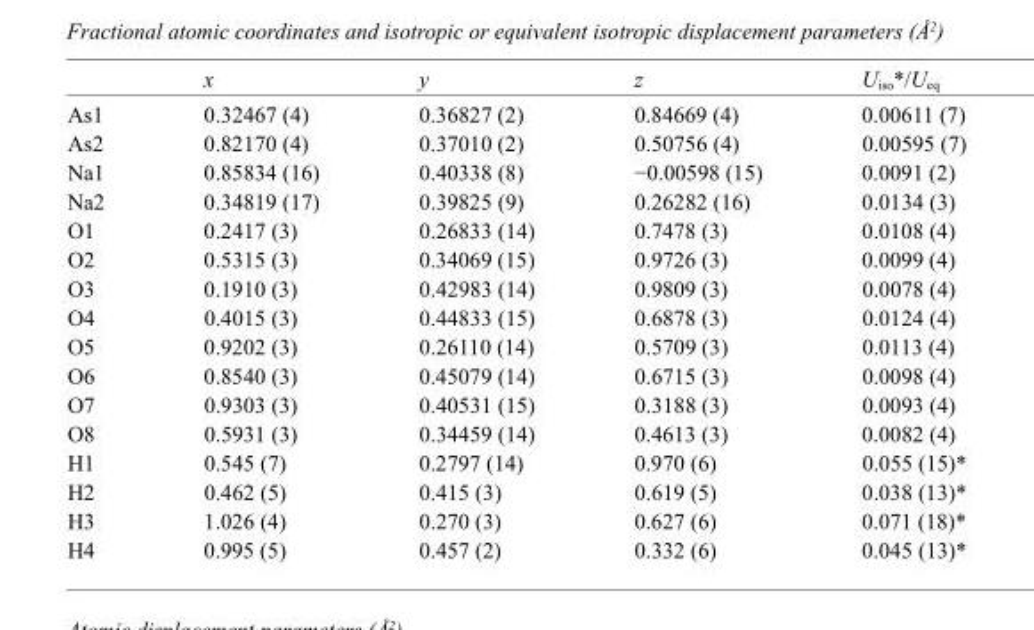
<table><thead><tr><td></td><td>x</td><td>y</td><td>z</td><td>U<sub>iso</sub>*/U<sub>eq</sub></td></tr></thead><tbody><tr><td>As1</td><td>0.32467 (4)</td><td>0.36827 (2)</td><td>0.84669 (4)</td><td>0.00611 (7)</td></tr><tr><td>As2</td><td>0.82170 (4)</td><td>0.37010 (2)</td><td>0.50756 (4)</td><td>0.00595 (7)</td></tr><tr><td>Na1</td><td>0.85834 (16)</td><td>0.40338 (8)</td><td>−0.00598 (15)</td><td>0.0091 (2)</td></tr><tr><td>Na2</td><td>0.34819 (17)</td><td>0.39825 (9)</td><td>0.26282 (16)</td><td>0.0134 (3)</td></tr><tr><td>O1</td><td>0.2417 (3)</td><td>0.26833 (14)</td><td>0.7478 (3)</td><td>0.0108 (4)</td></tr><tr><td>O2</td><td>0.5315 (3)</td><td>0.34069 (15)</td><td>0.9726 (3)</td><td>0.0099 (4)</td></tr><tr><td>O3</td><td>0.1910 (3)</td><td>0.42983 (14)</td><td>0.9809 (3)</td><td>0.0078 (4)</td></tr><tr><td>O4</td><td>0.4015 (3)</td><td>0.44833 (15)</td><td>0.6878 (3)</td><td>0.0124 (4)</td></tr><tr><td>O5</td><td>0.9202 (3)</td><td>0.26110 (14)</td><td>0.5709 (3)</td><td>0.0113 (4)</td></tr><tr><td>O6</td><td>0.8540 (3)</td><td>0.45079 (14)</td><td>0.6715 (3)</td><td>0.0098 (4)</td></tr><tr><td>O7</td><td>0.9303 (3)</td><td>0.40531 (15)</td><td>0.3188 (3)</td><td>0.0093 (4)</td></tr><tr><td>O8</td><td>0.5931 (3)</td><td>0.34459 (14)</td><td>0.4613 (3)</td><td>0.0082 (4)</td></tr><tr><td>H1</td><td>0.545 (7)</td><td>0.2797 (14)</td><td>0.970 (6)</td><td>0.055 (15)*</td></tr><tr><td>H2</td><td>0.462 (5)</td><td>0.415 (3)</td><td>0.619 (5)</td><td>0.038 (13)*</td></tr><tr><td>H3</td><td>1.026 (4)</td><td>0.270 (3)</td><td>0.627 (6)</td><td>0.071 (18)*</td></tr><tr><td>H4</td><td>0.995 (5)</td><td>0.457 (2)</td><td>0.332 (6)</td><td>0.045 (13)*</td></tr></tbody></table>